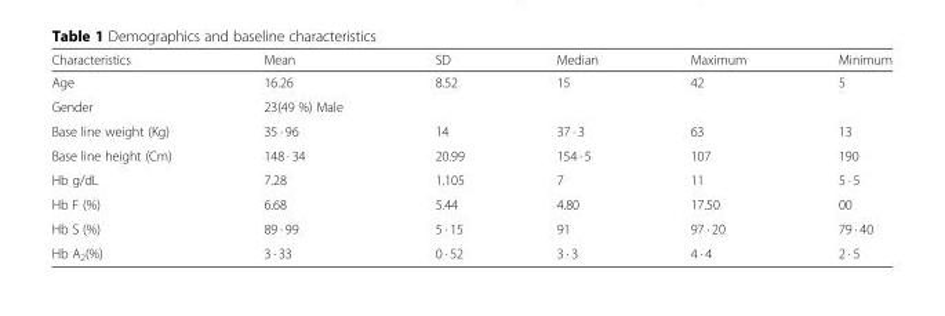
<table><thead><tr><td>Characteristics</td><td>Mean</td><td>SD</td><td>Median</td><td>Maximum</td><td>Minimum</td></tr></thead><tbody><tr><td>Age</td><td>16.26</td><td>8.52</td><td>15</td><td>42</td><td>5</td></tr><tr><td>Gender</td><td>23(49 %) Male</td><td></td><td></td><td></td><td></td></tr><tr><td>Base line weight (Kg)</td><td>35 · 96</td><td>14</td><td>37 · 3</td><td>63</td><td>13</td></tr><tr><td>Base line height (Cm)</td><td>148 · 34</td><td>20.99</td><td>154 · 5</td><td>107</td><td>190</td></tr><tr><td>Hb g/dL</td><td>7.28</td><td>1.105</td><td>7</td><td>11</td><td>5 · 5</td></tr><tr><td>Hb F (%)</td><td>6.68</td><td>5.44</td><td>4.80</td><td>17.50</td><td>00</td></tr><tr><td>Hb S (%)</td><td>89 · 99</td><td>5 · 15</td><td>91</td><td>97 · 20</td><td>79 · 40</td></tr><tr><td>Hb A<sub>2</sub>(%)</td><td>3 · 33</td><td>0 · 52</td><td>3 · 3</td><td>4 · 4</td><td>2 · 5</td></tr></tbody></table>